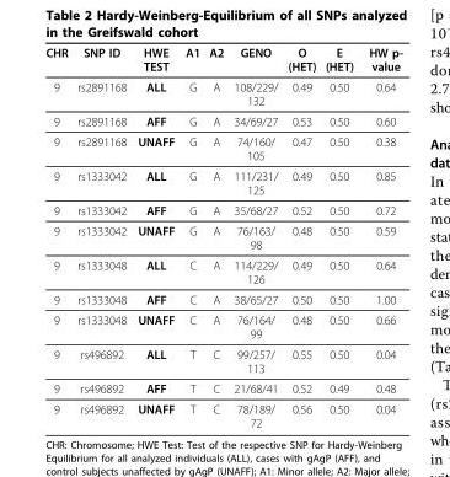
<table><thead><tr><td>CHR</td><td>SNP ID</td><td>HWE TEST</td><td>A1</td><td>A2</td><td>GENO</td><td>O (HET)</td><td>E (HET)</td><td>HW p- value</td></tr></thead><tbody><tr><td>9</td><td>rs2891168</td><td>ALL</td><td>G</td><td>A</td><td>108/229/ 132</td><td>0.49</td><td>0.50</td><td>0.64</td></tr><tr><td>9</td><td>rs2891168</td><td>AFF</td><td>G</td><td>A</td><td>34/69/27</td><td>0.53</td><td>0.50</td><td>0.60</td></tr><tr><td>9</td><td>rs2891168</td><td>UNAFF</td><td>G</td><td>A</td><td>74/160/ 105</td><td>0.47</td><td>0.50</td><td>0.38</td></tr><tr><td>9</td><td>rs1333042</td><td>ALL</td><td>G</td><td>A</td><td>111/231/ 125</td><td>0.49</td><td>0.50</td><td>0.85</td></tr><tr><td>9</td><td>rs1333042</td><td>AFF</td><td>G</td><td>A</td><td>35/68/27</td><td>0.52</td><td>0.50</td><td>0.72</td></tr><tr><td>9</td><td>rs1333042</td><td>UNAFF</td><td>G</td><td>A</td><td>76/163/ 98</td><td>0.48</td><td>0.50</td><td>0.59</td></tr><tr><td>9</td><td>rs1333048</td><td>ALL</td><td>C</td><td>A</td><td>114/229/ 126</td><td>0.49</td><td>0.50</td><td>0.64</td></tr><tr><td>9</td><td>rs1333048</td><td>AFF</td><td>C</td><td>A</td><td>38/65/27</td><td>0.50</td><td>0.50</td><td>1.00</td></tr><tr><td>9</td><td>rs1333048</td><td>UNAFF</td><td>C</td><td>A</td><td>76/164/ 99</td><td>0.48</td><td>0.50</td><td>0.66</td></tr><tr><td>9</td><td>rs496892</td><td>ALL</td><td>T</td><td>C</td><td>99/257/ 113</td><td>0.55</td><td>0.50</td><td>0.04</td></tr><tr><td>9</td><td>rs496892</td><td>AFF</td><td>T</td><td>C</td><td>21/68/41</td><td>0.52</td><td>0.49</td><td>0.48</td></tr><tr><td>9</td><td>rs496892</td><td>UNAFF</td><td>T</td><td>C</td><td>78/189/ 72</td><td>0.56</td><td>0.50</td><td>0.04</td></tr></tbody></table>